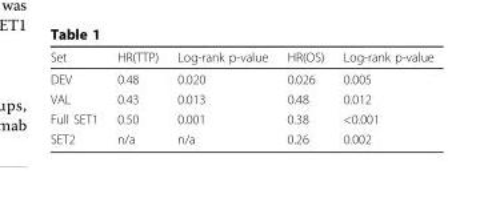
<table><thead><tr><td>Set</td><td>HR(TTP)</td><td>Log-rank p-value</td><td>HR(OS)</td><td>Log-rank p-value</td></tr></thead><tbody><tr><td>DEV</td><td>0.48</td><td>0.020</td><td>0.026</td><td>0.005</td></tr><tr><td>VAL</td><td>0.43</td><td>0.013</td><td>0.48</td><td>0.012</td></tr><tr><td>Full SET1</td><td>0.50</td><td>0.001</td><td>0.38</td><td>&lt;0.001</td></tr><tr><td>SET2</td><td>n/a</td><td>n/a</td><td>0.26</td><td>0.002</td></tr></tbody></table>